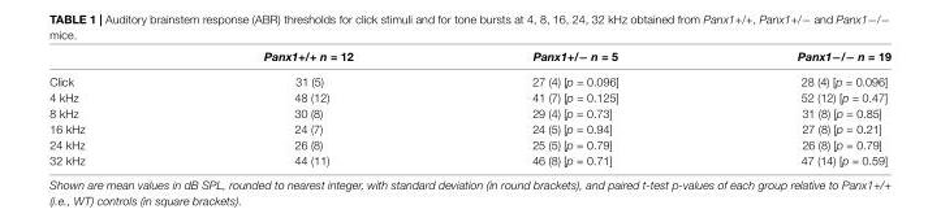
<table><thead><tr><td></td><td>Panx1+/+ n = 12</td><td>Panx1+/− n = 5</td><td>Panx1−/− n = 19</td></tr></thead><tbody><tr><td>Click</td><td>31 (5)</td><td>27 (4) [p = 0.096]</td><td>28 (4) [p = 0.096]</td></tr><tr><td>4 kHz</td><td>48 (12)</td><td>41 (7) [p = 0.125]</td><td>52 (12) [p = 0.47]</td></tr><tr><td>8 kHz</td><td>30 (8)</td><td>29 (4) [p = 0.73]</td><td>31 (8) [p = 0.85]</td></tr><tr><td>16 kHz</td><td>24 (7)</td><td>24 (5) [p = 0.94]</td><td>27 (8) [p = 0.21]</td></tr><tr><td>24 kHz</td><td>26 (8)</td><td>25 (5) [p = 0.79]</td><td>26 (8) [p = 0.79]</td></tr><tr><td>32 kHz</td><td>44 (11)</td><td>46 (8) [p = 0.71]</td><td>47 (14) [p = 0.59]</td></tr></tbody></table>